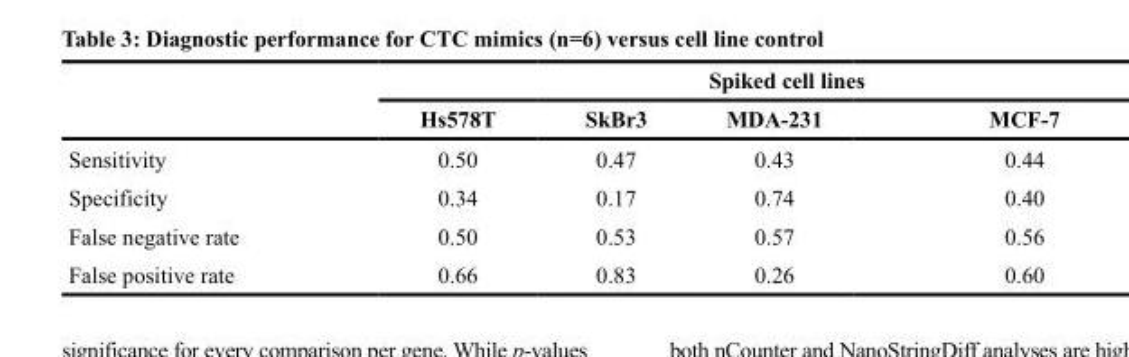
<table><thead><tr><td rowspan="2"></td><td rowspan="2">Hs578T</td><td rowspan="2">SkBr3</td><td rowspan="2">Spiked cell lines MDA-231</td><td rowspan="2">MCF-7</td></tr><tr></tr></thead><tbody><tr><td>Sensitivity</td><td>0.50</td><td>0.47</td><td>0.43</td><td>0.44</td></tr><tr><td>Specificity</td><td>0.34</td><td>0.17</td><td>0.74</td><td>0.40</td></tr><tr><td>False negative rate</td><td>0.50</td><td>0.53</td><td>0.57</td><td>0.56</td></tr><tr><td>False positive rate</td><td>0.66</td><td>0.83</td><td>0.26</td><td>0.60</td></tr></tbody></table>